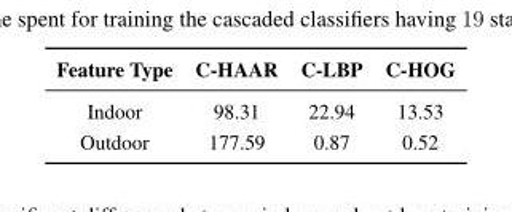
<table><thead><tr><td>Feature Type</td><td>C-HAAR</td><td>C-LBP</td><td>C-HOG</td></tr></thead><tbody><tr><td>Indoor</td><td>98.31</td><td>22.94</td><td>13.53</td></tr><tr><td>Outdoor</td><td>177.59</td><td>0.87</td><td>0.52</td></tr></tbody></table>